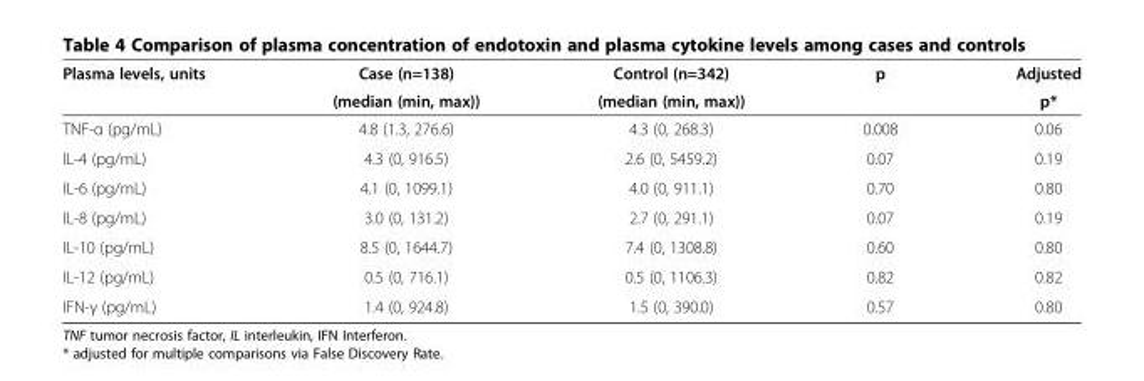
<table><thead><tr><td rowspan="2">Plasma levels, units</td><td rowspan="2">Case (n=138) (median (min, max))</td><td rowspan="2">Control (n=342) (median (min, max))</td><td rowspan="2">p</td><td rowspan="2">Adjusted p*</td></tr><tr></tr></thead><tbody><tr><td>TNF-α (pg/mL)</td><td>4.8 (1.3, 276.6)</td><td>4.3 (0, 268.3)</td><td>0.008</td><td>0.06</td></tr><tr><td>IL-4 (pg/mL)</td><td>4.3 (0, 916.5)</td><td>2.6 (0, 5459.2)</td><td>0.07</td><td>0.19</td></tr><tr><td>IL-6 (pg/mL)</td><td>4.1 (0, 1099.1)</td><td>4.0 (0, 911.1)</td><td>0.70</td><td>0.80</td></tr><tr><td>IL-8 (pg/mL)</td><td>3.0 (0, 131.2)</td><td>2.7 (0, 291.1)</td><td>0.07</td><td>0.19</td></tr><tr><td>IL-10 (pg/mL)</td><td>8.5 (0, 1644.7)</td><td>7.4 (0, 1308.8)</td><td>0.60</td><td>0.80</td></tr><tr><td>IL-12 (pg/mL)</td><td>0.5 (0, 716.1)</td><td>0.5 (0, 1106.3)</td><td>0.82</td><td>0.82</td></tr><tr><td>IFN-γ (pg/mL)</td><td>1.4 (0, 924.8)</td><td>1.5 (0, 390.0)</td><td>0.57</td><td>0.80</td></tr></tbody></table>